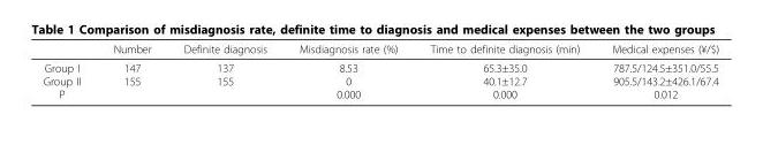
<table><thead><tr><td></td><td>Number</td><td>Definite diagnosis</td><td>Misdiagnosis rate (%)</td><td>Time to definite diagnosis (min)</td><td>Medical expenses (¥/$)</td></tr></thead><tbody><tr><td>Group I Group II P</td><td>147 155</td><td>137 155</td><td>8.53 0 0.000</td><td>65.3±35.0 40.1±12.7 0.000</td><td>787.5/124.5±351.0/55.5 905.5/143.2±426.1/67.4 0.012</td></tr></tbody></table>